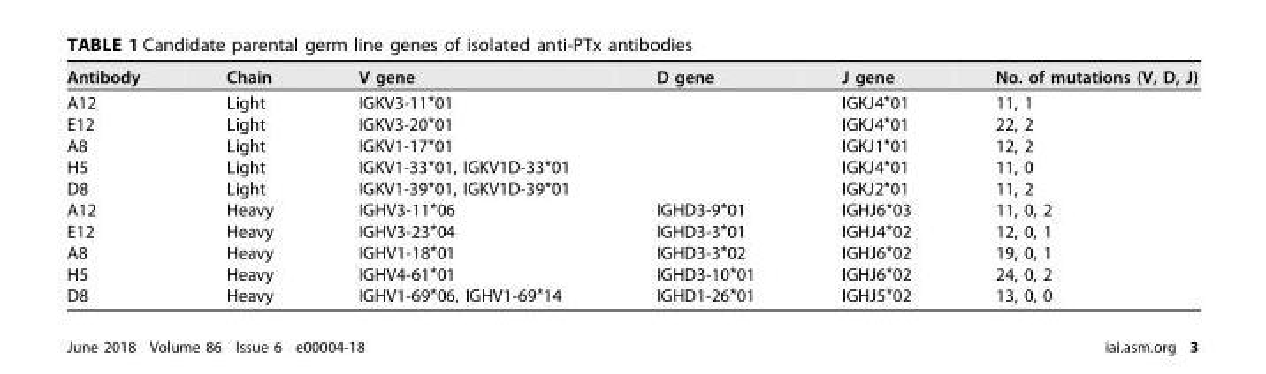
<table><thead><tr><td>Antibody</td><td>Chain</td><td>V gene</td><td>D gene</td><td>J gene</td><td>No. of mutations (V, D, J)</td></tr></thead><tbody><tr><td>A12</td><td>Light</td><td>IGKV3-11*01</td><td></td><td>IGKJ4*01</td><td>11, 1</td></tr><tr><td>E12</td><td>Light</td><td>IGKV3-20*01</td><td></td><td>IGKJ4*01</td><td>22, 2</td></tr><tr><td>A8</td><td>Light</td><td>IGKV1-17*01</td><td></td><td>IGKJ1*01</td><td>12, 2</td></tr><tr><td>H5</td><td>Light</td><td>IGKV1-33*01, IGKV1D-33*01</td><td></td><td>IGKJ4*01</td><td>11, 0</td></tr><tr><td>D8</td><td>Light</td><td>IGKV1-39*01, IGKV1D-39*01</td><td></td><td>IGKJ2*01</td><td>11, 2</td></tr><tr><td>A12</td><td>Heavy</td><td>IGHV3-11*06</td><td>IGHD3-9*01</td><td>IGHJ6*03</td><td>11, 0, 2</td></tr><tr><td>E12</td><td>Heavy</td><td>IGHV3-23*04</td><td>IGHD3-3*01</td><td>IGHJ4*02</td><td>12, 0, 1</td></tr><tr><td>A8</td><td>Heavy</td><td>IGHV1-18*01</td><td>IGHD3-3*02</td><td>IGHJ6*02</td><td>19, 0, 1</td></tr><tr><td>H5</td><td>Heavy</td><td>IGHV4-61*01</td><td>IGHD3-10*01</td><td>IGHJ6*02</td><td>24, 0, 2</td></tr><tr><td>D8</td><td>Heavy</td><td>IGHV1-69*06, IGHV1-69*14</td><td>IGHD1-26*01</td><td>IGHJ5*02</td><td>13, 0, 0</td></tr></tbody></table>